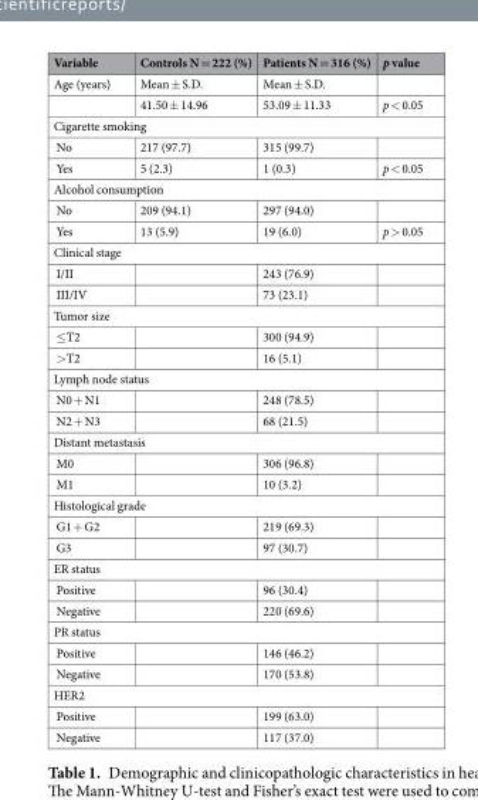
<table><thead><tr><td>Variable</td><td>Controls N = 222 (%)</td><td>Patients N = 316 (%)</td><td>p value</td></tr></thead><tbody><tr><td rowspan="2">Age (years)</td><td>Mean ± S.D.</td><td>Mean ± S.D.</td><td></td></tr><tr><td>41.50 ± 14.96</td><td>53.09 ± 11.33</td><td>p &lt; 0.05</td></tr><tr><td colspan="4">Cigarette smoking</td></tr><tr><td>No</td><td>217 (97.7)</td><td>315 (99.7)</td><td></td></tr><tr><td>Yes</td><td>5 (2.3)</td><td>1 (0.3)</td><td>p &lt; 0.05</td></tr><tr><td colspan="4">Alcohol consumption</td></tr><tr><td>No</td><td>209 (94.1)</td><td>297 (94.0)</td><td></td></tr><tr><td>Yes</td><td>13 (5.9)</td><td>19 (6.0)</td><td>p &gt; 0.05</td></tr><tr><td colspan="4">Clinical stage</td></tr><tr><td>I/II</td><td></td><td>243 (76.9)</td><td></td></tr><tr><td>III/IV</td><td></td><td>73 (23.1)</td><td></td></tr><tr><td colspan="4">Tumor size</td></tr><tr><td>≤T2</td><td></td><td>300 (94.9)</td><td></td></tr><tr><td>&gt;T2</td><td></td><td>16 (5.1)</td><td></td></tr><tr><td colspan="4">Lymph node status</td></tr><tr><td>N0 + N1</td><td></td><td>248 (78.5)</td><td></td></tr><tr><td>N2 + N3</td><td></td><td>68 (21.5)</td><td></td></tr><tr><td colspan="4">Distant metastasis</td></tr><tr><td>M0</td><td></td><td>306 (96.8)</td><td></td></tr><tr><td>M1</td><td></td><td>10 (3.2)</td><td></td></tr><tr><td colspan="4">Histological grade</td></tr><tr><td>G1 + G2</td><td></td><td>219 (69.3)</td><td></td></tr><tr><td>G3</td><td></td><td>97 (30.7)</td><td></td></tr><tr><td colspan="4">ER status</td></tr><tr><td>Positive</td><td></td><td>96 (30.4)</td><td></td></tr><tr><td>Negative</td><td></td><td>220 (69.6)</td><td></td></tr><tr><td colspan="4">PR status</td></tr><tr><td>Positive</td><td></td><td>146 (46.2)</td><td></td></tr><tr><td>Negative</td><td></td><td>170 (53.8)</td><td></td></tr><tr><td colspan="4">HER2</td></tr><tr><td>Positive</td><td></td><td>199 (63.0)</td><td></td></tr><tr><td>Negative</td><td></td><td>117 (37.0)</td><td></td></tr></tbody></table>